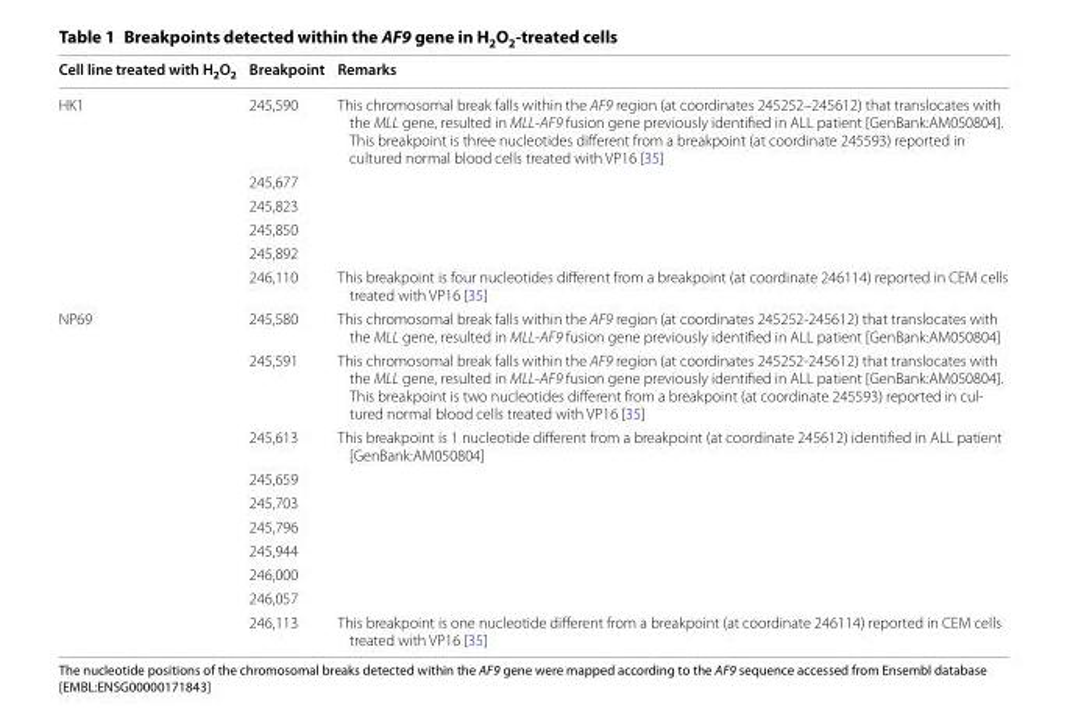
<table><thead><tr><td>Cell line treated with H<sub>2</sub>O<sub>2</sub></td><td>Breakpoint</td><td>Remarks</td></tr></thead><tbody><tr><td rowspan="6">HK1</td><td>245,590</td><td>This chromosomal break falls within the AF9 region (at coordinates 245252–245612) that translocates with the MLL gene, resulted in MLL‑AF9 fusion gene previously identified in ALL patient [GenBank:AM050804]. This breakpoint is three nucleotides different from a breakpoint (at coordinate 245593) reported in cultured normal blood cells treated with VP16 [35]</td></tr><tr><td>245,677</td><td></td></tr><tr><td>245,823</td><td></td></tr><tr><td>245,850</td><td></td></tr><tr><td>245,892</td><td></td></tr><tr><td>246,110</td><td>This breakpoint is four nucleotides different from a breakpoint (at coordinate 246114) reported in CEM cells treated with VP16 [35]</td></tr><tr><td rowspan="10">NP69</td><td>245,580</td><td>This chromosomal break falls within the AF9 region (at coordinates 245252‑245612) that translocates with the MLL gene, resulted in MLL‑AF9 fusion gene previously identified in ALL patient [GenBank:AM050804]</td></tr><tr><td>245,591</td><td>This chromosomal break falls within the AF9 region (at coordinates 245252‑245612) that translocates with the MLL gene, resulted in MLL‑AF9 fusion gene previously identified in ALL patient [GenBank:AM050804]. This breakpoint is two nucleotides different from a breakpoint (at coordinate 245593) reported in cul‑ tured normal blood cells treated with VP16 [35]</td></tr><tr><td>245,613</td><td>This breakpoint is 1 nucleotide different from a breakpoint (at coordinate 245612) identified in ALL patient [GenBank:AM050804]</td></tr><tr><td>245,659</td><td></td></tr><tr><td>245,703</td><td></td></tr><tr><td>245,796</td><td></td></tr><tr><td>245,944</td><td></td></tr><tr><td>246,000</td><td></td></tr><tr><td>246,057</td><td></td></tr><tr><td>246,113</td><td>This breakpoint is one nucleotide different from a breakpoint (at coordinate 246114) reported in CEM cells treated with VP16 [35]</td></tr></tbody></table>